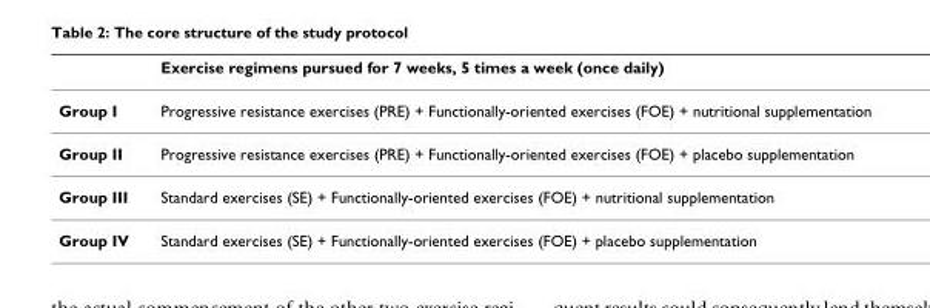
<table><thead><tr><td></td><td>Exercise regimens pursued for 7 weeks, 5 times a week (once daily)</td></tr></thead><tbody><tr><td>Group I</td><td>Progressive resistance exercises (PRE) + Functionally-oriented exercises (FOE) + nutritional supplementation</td></tr><tr><td>Group II</td><td>Progressive resistance exercises (PRE) + Functionally-oriented exercises (FOE) + placebo supplementation</td></tr><tr><td>Group III</td><td>Standard exercises (SE) + Functionally-oriented exercises (FOE) + nutritional supplementation</td></tr><tr><td>Group IV</td><td>Standard exercises (SE) + Functionally-oriented exercises (FOE) + placebo supplementation</td></tr></tbody></table>